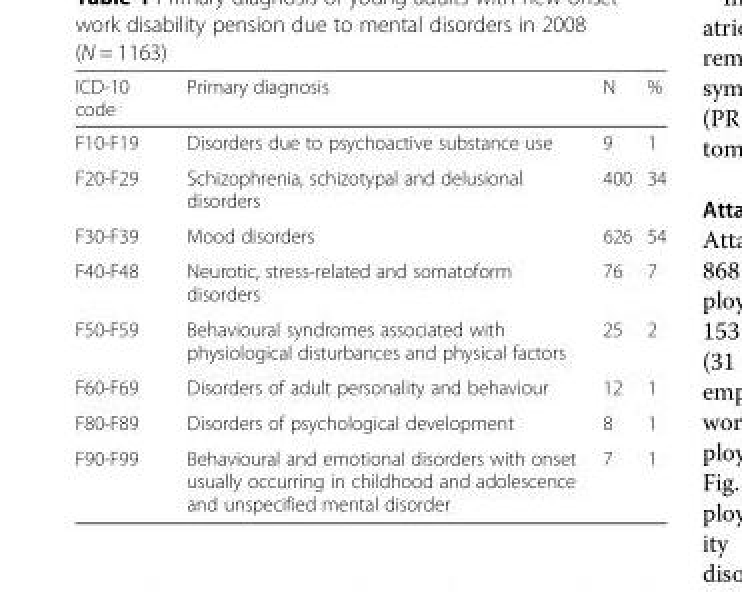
<table><thead><tr><td>ICD-10 code</td><td>Primary diagnosis</td><td>N</td><td>%</td></tr></thead><tbody><tr><td>F10-F19</td><td>Disorders due to psychoactive substance use</td><td>9</td><td>1</td></tr><tr><td>F20-F29</td><td>Schizophrenia, schizotypal and delusional disorders</td><td>400</td><td>34</td></tr><tr><td>F30-F39</td><td>Mood disorders</td><td>626</td><td>54</td></tr><tr><td>F40-F48</td><td>Neurotic, stress-related and somatoform disorders</td><td>76</td><td>7</td></tr><tr><td>F50-F59</td><td>Behavioural syndromes associated with physiological disturbances and physical factors</td><td>25</td><td>2</td></tr><tr><td>F60-F69</td><td>Disorders of adult personality and behaviour</td><td>12</td><td>1</td></tr><tr><td>F80-F89</td><td>Disorders of psychological development</td><td>8</td><td>1</td></tr><tr><td>F90-F99</td><td>Behavioural and emotional disorders with onset usually occurring in childhood and adolescence and unspecified mental disorder</td><td>7</td><td>1</td></tr></tbody></table>